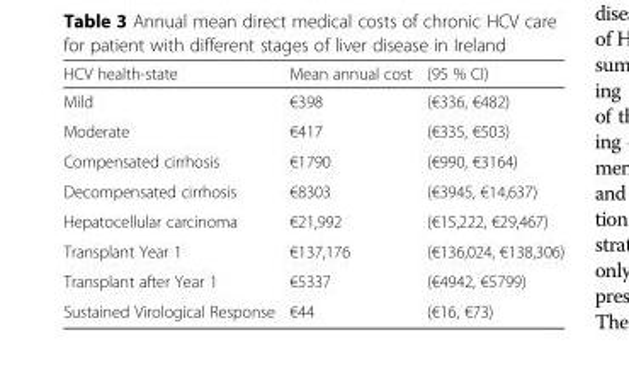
<table><thead><tr><td>HCV health-state</td><td>Mean annual cost</td><td>(95 % CI)</td></tr></thead><tbody><tr><td>Mild</td><td>€398</td><td>(€336, €482)</td></tr><tr><td>Moderate</td><td>€417</td><td>(€335, €503)</td></tr><tr><td>Compensated cirrhosis</td><td>€1790</td><td>(€990, €3164)</td></tr><tr><td>Decompensated cirrhosis</td><td>€8303</td><td>(€3945, €14,637)</td></tr><tr><td>Hepatocellular carcinoma</td><td>€21,992</td><td>(€15,222, €29,467)</td></tr><tr><td>Transplant Year 1</td><td>€137,176</td><td>(€136,024, €138,306)</td></tr><tr><td>Transplant after Year 1</td><td>€5337</td><td>(€4942, €5799)</td></tr><tr><td>Sustained Virological Response</td><td>€44</td><td>(€16, €73)</td></tr></tbody></table>